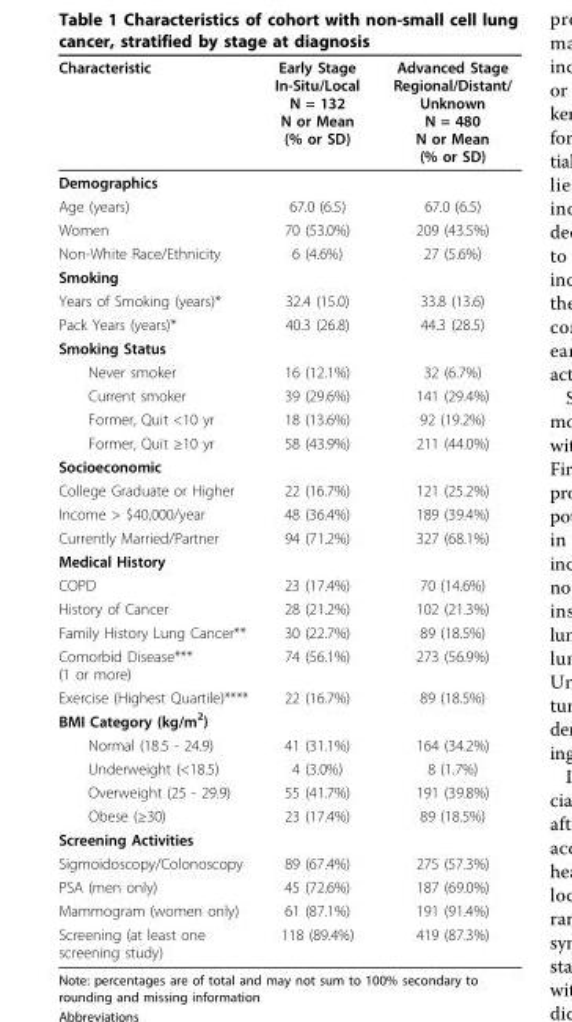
<table><thead><tr><td>Characteristic</td><td>Early Stage In-Situ/Local N = 132 N or Mean (% or SD)</td><td>Advanced Stage Regional/Distant/ Unknown N = 480 N or Mean (% or SD)</td></tr></thead><tbody><tr><td colspan="3">Demographics</td></tr><tr><td>Age (years)</td><td>67.0 (6.5)</td><td>67.0 (6.5)</td></tr><tr><td>Women</td><td>70 (53.0%)</td><td>209 (43.5%)</td></tr><tr><td>Non-White Race/Ethnicity</td><td>6 (4.6%)</td><td>27 (5.6%)</td></tr><tr><td colspan="3">Smoking</td></tr><tr><td>Years of Smoking (years)*</td><td>32.4 (15.0)</td><td>33.8 (13.6)</td></tr><tr><td>Pack Years (years)*</td><td>40.3 (26.8)</td><td>44.3 (28.5)</td></tr><tr><td colspan="3">Smoking Status</td></tr><tr><td>Never smoker</td><td>16 (12.1%)</td><td>32 (6.7%)</td></tr><tr><td>Current smoker</td><td>39 (29.6%)</td><td>141 (29.4%)</td></tr><tr><td>Former, Quit &lt;10 yr</td><td>18 (13.6%)</td><td>92 (19.2%)</td></tr><tr><td>Former, Quit ≥10 yr</td><td>58 (43.9%)</td><td>211 (44.0%)</td></tr><tr><td colspan="3">Socioeconomic</td></tr><tr><td>College Graduate or Higher</td><td>22 (16.7%)</td><td>121 (25.2%)</td></tr><tr><td>Income &gt; $40,000/year</td><td>48 (36.4%)</td><td>189 (39.4%)</td></tr><tr><td>Currently Married/Partner</td><td>94 (71.2%)</td><td>327 (68.1%)</td></tr><tr><td colspan="3">Medical History</td></tr><tr><td>COPD</td><td>23 (17.4%)</td><td>70 (14.6%)</td></tr><tr><td>History of Cancer</td><td>28 (21.2%)</td><td>102 (21.3%)</td></tr><tr><td>Family History Lung Cancer**</td><td>30 (22.7%)</td><td>89 (18.5%)</td></tr><tr><td>Comorbid Disease*** (1 or more)</td><td>74 (56.1%)</td><td>273 (56.9%)</td></tr><tr><td>Exercise (Highest Quartile)****</td><td>22 (16.7%)</td><td>89 (18.5%)</td></tr><tr><td colspan="3">BMI Category (kg/m<sup>2</sup>)</td></tr><tr><td>Normal (18.5 - 24.9)</td><td>41 (31.1%)</td><td>164 (34.2%)</td></tr><tr><td>Underweight (&lt;18.5)</td><td>4 (3.0%)</td><td>8 (1.7%)</td></tr><tr><td>Overweight (25 - 29.9)</td><td>55 (41.7%)</td><td>191 (39.8%)</td></tr><tr><td>Obese (≥30)</td><td>23 (17.4%)</td><td>89 (18.5%)</td></tr><tr><td colspan="3">Screening Activities</td></tr><tr><td>Sigmoidoscopy/Colonoscopy</td><td>89 (67.4%)</td><td>275 (57.3%)</td></tr><tr><td>PSA (men only)</td><td>45 (72.6%)</td><td>187 (69.0%)</td></tr><tr><td>Mammogram (women only)</td><td>61 (87.1%)</td><td>191 (91.4%)</td></tr><tr><td>Screening (at least one screening study)</td><td>118 (89.4%)</td><td>419 (87.3%)</td></tr></tbody></table>